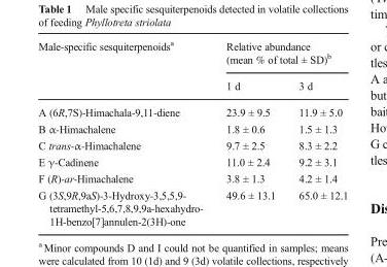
<table><thead><tr><td rowspan="2">Male-specific sesquiterpenoids<sup>a</sup></td><td colspan="2">Relative abundance (mean % of total ± SD)<sup>b</sup></td></tr><tr><td>1 d</td><td>3 d</td></tr></thead><tbody><tr><td>A (6R,7S)-Himachala-9,11-diene</td><td>23.9 ± 9.5</td><td>11.9 ± 5.0</td></tr><tr><td>B α-Himachalene</td><td>1.8 ± 0.6</td><td>1.5 ± 1.3</td></tr><tr><td>C trans-α-Himachalene</td><td>9.7 ± 2.5</td><td>8.3 ± 2.2</td></tr><tr><td>E γ-Cadinene</td><td>11.0 ± 2.4</td><td>9.2 ± 3.1</td></tr><tr><td>F (R)-ar-Himachalene</td><td>3.8 ± 1.3</td><td>4.2 ± 1.4</td></tr><tr><td>G (3S,9R,9aS)-3-Hydroxy-3,5,5,9- tetramethyl-5,6,7,8,9,9a-hexahydro- 1H-benzo[7]annulen-2(3H)-one</td><td>49.6 ± 13.1</td><td>65.0 ± 12.1</td></tr></tbody></table>